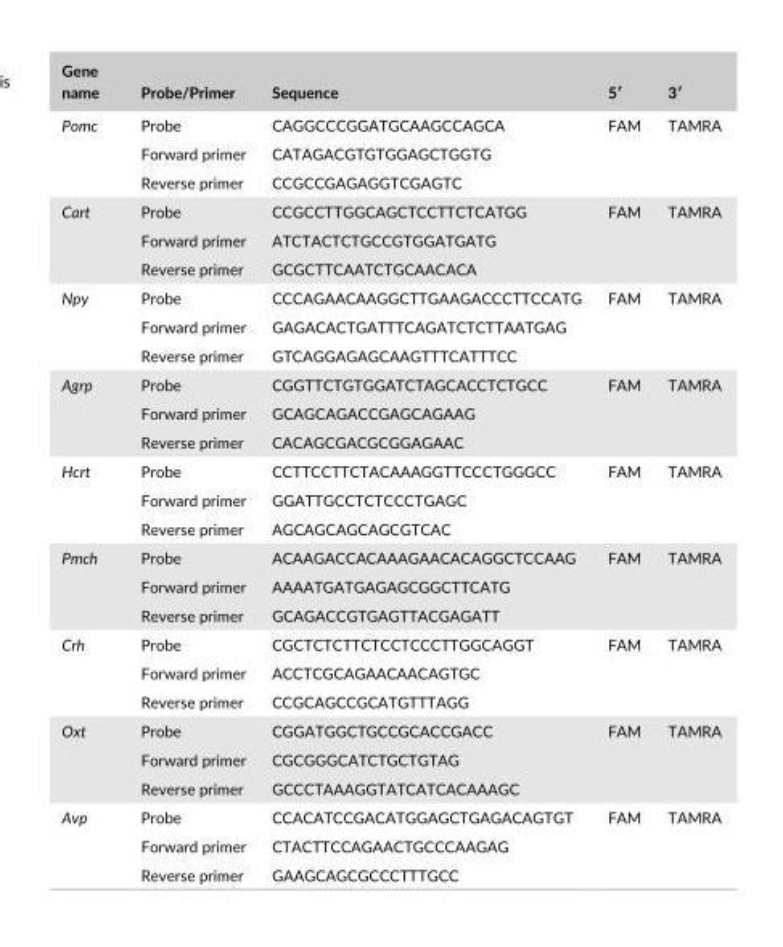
<table><thead><tr><td>Gene name</td><td>Probe/Primer</td><td>Sequence</td><td>5′</td><td>3′</td></tr></thead><tbody><tr><td rowspan="3">Pomc</td><td>Probe</td><td>CAGGCCCGGATGCAAGCCAGCA</td><td rowspan="3">FAM</td><td rowspan="3">TAMRA</td></tr><tr><td>Forward primer</td><td>CATAGACGTGTGGAGCTGGTG</td></tr><tr><td>Reverse primer</td><td>CCGCCGAGAGGTCGAGTC</td></tr><tr><td rowspan="3">Cart</td><td>Probe</td><td>CCGCCTTGGCAGCTCCTTCTCATGG</td><td rowspan="3">FAM</td><td rowspan="3">TAMRA</td></tr><tr><td>Forward primer</td><td>ATCTACTCTGCCGTGGATGATG</td></tr><tr><td>Reverse primer</td><td>GCGCTTCAATCTGCAACACA</td></tr><tr><td rowspan="3">Npy</td><td>Probe</td><td>CCCAGAACAAGGCTTGAAGACCCTTCCATG</td><td rowspan="3">FAM</td><td rowspan="3">TAMRA</td></tr><tr><td>Forward primer</td><td>GAGACACTGATTTCAGATCTCTTAATGAG</td></tr><tr><td>Reverse primer</td><td>GTCAGGAGAGCAAGTTTCATTTCC</td></tr><tr><td rowspan="3">Agrp</td><td>Probe</td><td>CGGTTCTGTGGATCTAGCACCTCTGCC</td><td rowspan="3">FAM</td><td rowspan="3">TAMRA</td></tr><tr><td>Forward primer</td><td>GCAGCAGACCGAGCAGAAG</td></tr><tr><td>Reverse primer</td><td>CACAGCGACGCGGAGAAC</td></tr><tr><td rowspan="3">Hcrt</td><td>Probe</td><td>CCTTCCTTCTACAAAGGTTCCCTGGGCC</td><td rowspan="3">FAM</td><td rowspan="3">TAMRA</td></tr><tr><td>Forward primer</td><td>GGATTGCCTCTCCCTGAGC</td></tr><tr><td>Reverse primer</td><td>AGCAGCAGCAGCGTCAC</td></tr><tr><td rowspan="3">Pmch</td><td>Probe</td><td>ACAAGACCACAAAGAACACAGGCTCCAAG</td><td rowspan="3">FAM</td><td rowspan="3">TAMRA</td></tr><tr><td>Forward primer</td><td>AAAATGATGAGAGCGGCTTCATG</td></tr><tr><td>Reverse primer</td><td>GCAGACCGTGAGTTACGAGATT</td></tr><tr><td rowspan="3">Crh</td><td>Probe</td><td>CGCTCTCTTCTCCTCCCTTGGCAGGT</td><td rowspan="3">FAM</td><td rowspan="3">TAMRA</td></tr><tr><td>Forward primer</td><td>ACCTCGCAGAACAACAGTGC</td></tr><tr><td>Reverse primer</td><td>CCGCAGCCGCATGTTTAGG</td></tr><tr><td rowspan="3">Oxt</td><td>Probe</td><td>CGGATGGCTGCCGCACCGACC</td><td rowspan="3">FAM</td><td rowspan="3">TAMRA</td></tr><tr><td>Forward primer</td><td>CGCGGGCATCTGCTGTAG</td></tr><tr><td>Reverse primer</td><td>GCCCTAAAGGTATCATCACAAAGC</td></tr><tr><td rowspan="3">Avp</td><td>Probe</td><td>CCACATCCGACATGGAGCTGAGACAGTGT</td><td rowspan="3">FAM</td><td rowspan="3">TAMRA</td></tr><tr><td>Forward primer</td><td>CTACTTCCAGAACTGCCCAAGAG</td></tr><tr><td>Reverse primer</td><td>GAAGCAGCGCCCTTTGCC</td></tr></tbody></table>